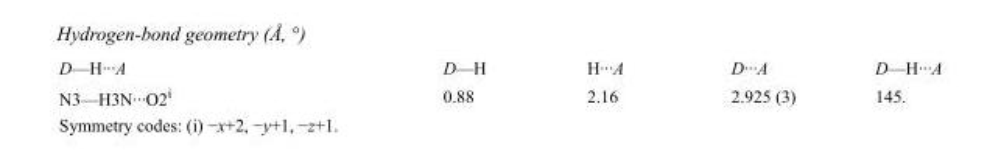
<table><tbody><tr><td>D—H···A</td><td>D—H</td><td>H···A</td><td>D···A</td><td>D—H···A</td></tr><tr><td>N3—H3N···O2<sup>i</sup></td><td>0.88</td><td>2.16</td><td>2.925 (3)</td><td>145.</td></tr></tbody></table>